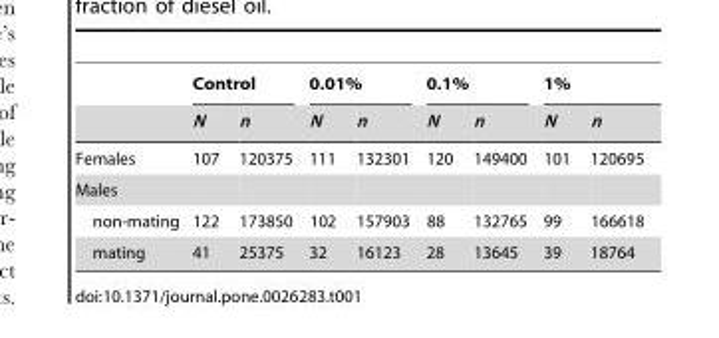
<table><thead><tr><td rowspan="2"></td><td colspan="2">Control</td><td colspan="2">0.01%</td><td colspan="2">0.1%</td><td colspan="2">1%</td></tr><tr><td>N</td><td>n</td><td>N</td><td>n</td><td>N</td><td>n</td><td>N</td><td>n</td></tr></thead><tbody><tr><td>Females</td><td>107</td><td>120375</td><td>111</td><td>132301</td><td>120</td><td>149400</td><td>101</td><td>120695</td></tr><tr><td colspan="9">Males</td></tr><tr><td>non-mating</td><td>122</td><td>173850</td><td>102</td><td>157903</td><td>88</td><td>132765</td><td>99</td><td>166618</td></tr><tr><td>mating</td><td>41</td><td>25375</td><td>32</td><td>16123</td><td>28</td><td>13645</td><td>39</td><td>18764</td></tr></tbody></table>